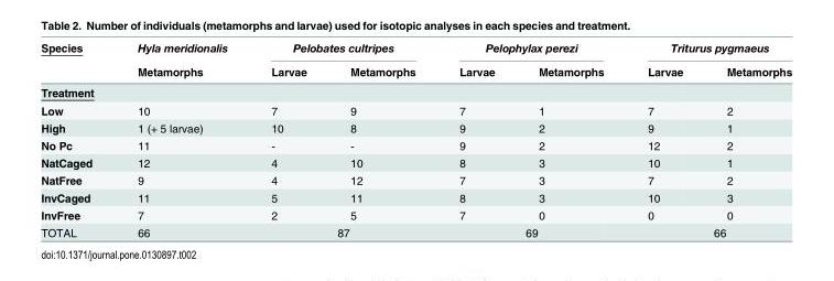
<table><thead><tr><td rowspan="2">Species</td><td rowspan="2">Hyla meridionalis Metamorphs</td><td colspan="2">Pelobates cultripes</td><td colspan="2">Pelophylax perezi</td><td colspan="2">Triturus pygmaeus</td></tr><tr><td>Larvae</td><td>Metamorphs</td><td>Larvae</td><td>Metamorphs</td><td>Larvae</td><td>Metamorphs</td></tr></thead><tbody><tr><td colspan="8">Treatment</td></tr><tr><td>Low</td><td>10</td><td>7</td><td>9</td><td>7</td><td>1</td><td>7</td><td>2</td></tr><tr><td>High</td><td>1 (+ 5 larvae)</td><td>10</td><td>8</td><td>9</td><td>2</td><td>9</td><td>1</td></tr><tr><td>No Pc</td><td>11</td><td>-</td><td>-</td><td>9</td><td>2</td><td>12</td><td>2</td></tr><tr><td>NatCaged</td><td>12</td><td>4</td><td>10</td><td>8</td><td>3</td><td>10</td><td>1</td></tr><tr><td>NatFree</td><td>9</td><td>4</td><td>12</td><td>7</td><td>3</td><td>7</td><td>2</td></tr><tr><td>InvCaged</td><td>11</td><td>5</td><td>11</td><td>8</td><td>3</td><td>10</td><td>3</td></tr><tr><td>InvFree</td><td>7</td><td>2</td><td>5</td><td>7</td><td>0</td><td>0</td><td>0</td></tr><tr><td>TOTAL</td><td>66</td><td colspan="2">87</td><td colspan="2">69</td><td colspan="2">66</td></tr></tbody></table>